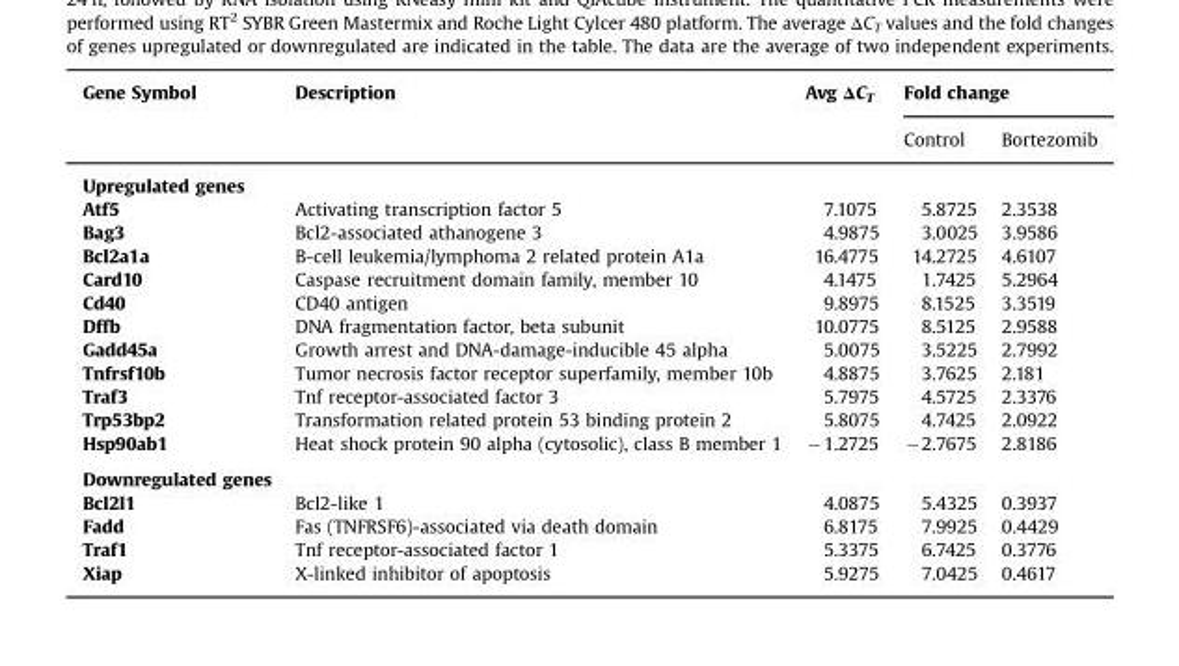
<table><thead><tr><td rowspan="2">Gene Symbol</td><td rowspan="2">Description</td><td rowspan="2">Avg ΔC<sub>T</sub></td><td colspan="2">Fold change</td></tr><tr><td>Control</td><td>Bortezomib</td></tr></thead><tbody><tr><td colspan="5">Upregulated genes</td></tr><tr><td>Atf5</td><td>Activating transcription factor 5</td><td>7.1075</td><td>5.8725</td><td>2.3538</td></tr><tr><td>Bag3</td><td>Bcl2-associated athanogene 3</td><td>4.9875</td><td>3.0025</td><td>3.9586</td></tr><tr><td>Bcl2a1a</td><td>B-cell leukemia/lymphoma 2 related protein A1a</td><td>16.4775</td><td>14.2725</td><td>4.6107</td></tr><tr><td>Card10</td><td>Caspase recruitment domain family, member 10</td><td>4.1475</td><td>1.7425</td><td>5.2964</td></tr><tr><td>Cd40</td><td>CD40 antigen</td><td>9.8975</td><td>8.1525</td><td>3.3519</td></tr><tr><td>Dffb</td><td>DNA fragmentation factor, beta subunit</td><td>10.0775</td><td>8.5125</td><td>2.9588</td></tr><tr><td>Gadd45a</td><td>Growth arrest and DNA-damage-inducible 45 alpha</td><td>5.0075</td><td>3.5225</td><td>2.7992</td></tr><tr><td>Tnfrsf10b</td><td>Tumor necrosis factor receptor superfamily, member 10b</td><td>4.8875</td><td>3.7625</td><td>2.181</td></tr><tr><td>Traf3</td><td>Tnf receptor-associated factor 3</td><td>5.7975</td><td>4.5725</td><td>2.3376</td></tr><tr><td>Trp53bp2</td><td>Transformation related protein 53 binding protein 2</td><td>5.8075</td><td>4.7425</td><td>2.0922</td></tr><tr><td>Hsp90ab1</td><td>Heat shock protein 90 alpha (cytosolic), class B member 1</td><td>−1.2725</td><td>−2.7675</td><td>2.8186</td></tr><tr><td colspan="5">Downregulated genes</td></tr><tr><td>Bcl2l1</td><td>Bcl2-like 1</td><td>4.0875</td><td>5.4325</td><td>0.3937</td></tr><tr><td>Fadd</td><td>Fas (TNFRSF6)-associated via death domain</td><td>6.8175</td><td>7.9925</td><td>0.4429</td></tr><tr><td>Traf1</td><td>Tnf receptor-associated factor 1</td><td>5.3375</td><td>6.7425</td><td>0.3776</td></tr><tr><td>Xiap</td><td>X-linked inhibitor of apoptosis</td><td>5.9275</td><td>7.0425</td><td>0.4617</td></tr></tbody></table>